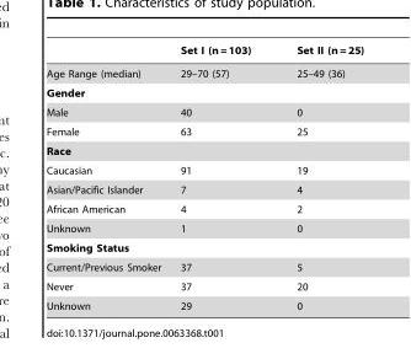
<table><thead><tr><td></td><td>Set I (n = 103)</td><td>Set II (n = 25)</td></tr></thead><tbody><tr><td>Age Range (median)</td><td>29–70 (57)</td><td>25–49 (36)</td></tr><tr><td colspan="3">Gender</td></tr><tr><td>Male</td><td>40</td><td>0</td></tr><tr><td>Female</td><td>63</td><td>25</td></tr><tr><td colspan="3">Race</td></tr><tr><td>Caucasian</td><td>91</td><td>19</td></tr><tr><td>Asian/Pacific Islander</td><td>7</td><td>4</td></tr><tr><td>African American</td><td>4</td><td>2</td></tr><tr><td>Unknown</td><td>1</td><td>0</td></tr><tr><td colspan="3">Smoking Status</td></tr><tr><td>Current/Previous Smoker</td><td>37</td><td>5</td></tr><tr><td>Never</td><td>37</td><td>20</td></tr><tr><td>Unknown</td><td>29</td><td>0</td></tr></tbody></table>